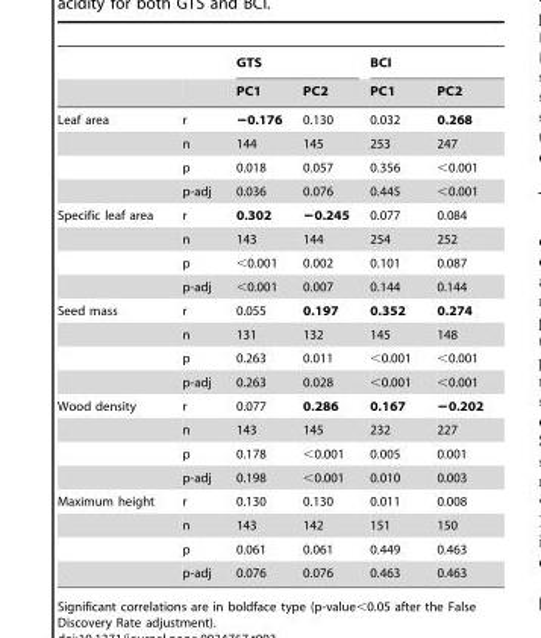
<table><thead><tr><td rowspan="2"></td><td rowspan="2"></td><td colspan="2">GTS</td><td colspan="2">BCI</td></tr><tr><td>PC1</td><td>PC2</td><td>PC1</td><td>PC2</td></tr></thead><tbody><tr><td rowspan="4">Leaf area</td><td>r</td><td>−0.176</td><td>0.130</td><td>0.032</td><td>0.268</td></tr><tr><td>n</td><td>144</td><td>145</td><td>253</td><td>247</td></tr><tr><td>p</td><td>0.018</td><td>0.057</td><td>0.356</td><td>&lt;0.001</td></tr><tr><td>p-adj</td><td>0.036</td><td>0.076</td><td>0.445</td><td>&lt;0.001</td></tr><tr><td rowspan="4">Specific leaf area</td><td>r</td><td>0.302</td><td>−0.245</td><td>0.077</td><td>0.084</td></tr><tr><td>n</td><td>143</td><td>144</td><td>254</td><td>252</td></tr><tr><td>p</td><td>&lt;0.001</td><td>0.002</td><td>0.101</td><td>0.087</td></tr><tr><td>p-adj</td><td>&lt;0.001</td><td>0.007</td><td>0.144</td><td>0.144</td></tr><tr><td rowspan="4">Seed mass</td><td>r</td><td>0.055</td><td>0.197</td><td>0.352</td><td>0.274</td></tr><tr><td>n</td><td>131</td><td>132</td><td>145</td><td>148</td></tr><tr><td>p</td><td>0.263</td><td>0.011</td><td>&lt;0.001</td><td>&lt;0.001</td></tr><tr><td>p-adj</td><td>0.263</td><td>0.028</td><td>&lt;0.001</td><td>&lt;0.001</td></tr><tr><td rowspan="4">Wood density</td><td>r</td><td>0.077</td><td>0.286</td><td>0.167</td><td>−0.202</td></tr><tr><td>n</td><td>143</td><td>145</td><td>232</td><td>227</td></tr><tr><td>p</td><td>0.178</td><td>&lt;0.001</td><td>0.005</td><td>0.001</td></tr><tr><td>p-adj</td><td>0.198</td><td>&lt;0.001</td><td>0.010</td><td>0.003</td></tr><tr><td rowspan="4">Maximum height</td><td>r</td><td>0.130</td><td>0.130</td><td>0.011</td><td>0.008</td></tr><tr><td>n</td><td>143</td><td>142</td><td>151</td><td>150</td></tr><tr><td>p</td><td>0.061</td><td>0.061</td><td>0.449</td><td>0.463</td></tr><tr><td>p-adj</td><td>0.076</td><td>0.076</td><td>0.463</td><td>0.463</td></tr></tbody></table>